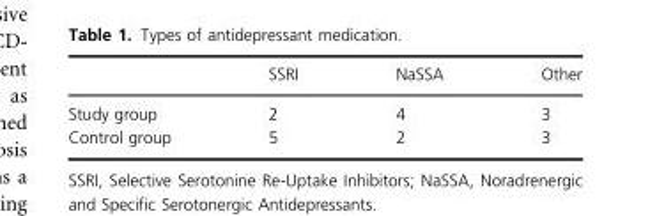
<table><thead><tr><td></td><td>SSRI</td><td>NaSSA</td><td>Other</td></tr></thead><tbody><tr><td>Study group</td><td>2</td><td>4</td><td>3</td></tr><tr><td>Control group</td><td>5</td><td>2</td><td>3</td></tr></tbody></table>